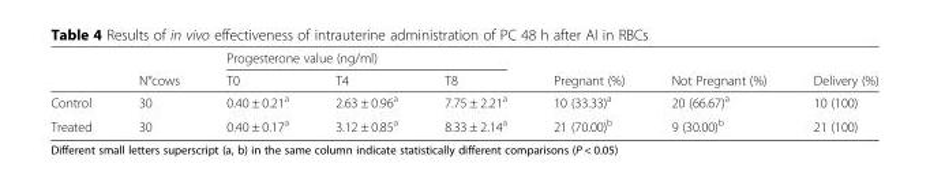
<table><thead><tr><td rowspan="2"></td><td rowspan="2">N°cows</td><td colspan="3">Progesterone value (ng/ml)</td><td rowspan="2">Pregnant (%)</td><td rowspan="2">Not Pregnant (%)</td><td rowspan="2">Delivery (%)</td></tr><tr><td>T0</td><td>T4</td><td>T8</td></tr></thead><tbody><tr><td>Control</td><td>30</td><td>0.40 ± 0.21<sup>a</sup></td><td>2.63 ± 0.96<sup>a</sup></td><td>7.75 ± 2.21<sup>a</sup></td><td>10 (33.33)<sup>a</sup></td><td>20 (66.67)<sup>a</sup></td><td>10 (100)</td></tr><tr><td>Treated</td><td>30</td><td>0.40 ± 0.17<sup>a</sup></td><td>3.12 ± 0.85<sup>a</sup></td><td>8.33 ± 2.14<sup>a</sup></td><td>21 (70.00)<sup>b</sup></td><td>9 (30.00)<sup>b</sup></td><td>21 (100)</td></tr></tbody></table>